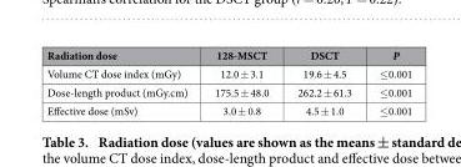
<table><thead><tr><td>Radiation dose</td><td>128-MSCT</td><td>DSCT</td><td>P</td></tr></thead><tbody><tr><td>Volume CT dose index (mGy)</td><td>12.0 ± 3.1</td><td>19.6 ± 4.5</td><td>≤ 0.001</td></tr><tr><td>Dose-length product (mGy.cm)</td><td>175.5 ± 48.0</td><td>262.2 ± 61.3</td><td>≤ 0.001</td></tr><tr><td>Effective dose (mSv)</td><td>3.0 ± 0.8</td><td>4.5 ± 1.0</td><td>≤ 0.001</td></tr></tbody></table>